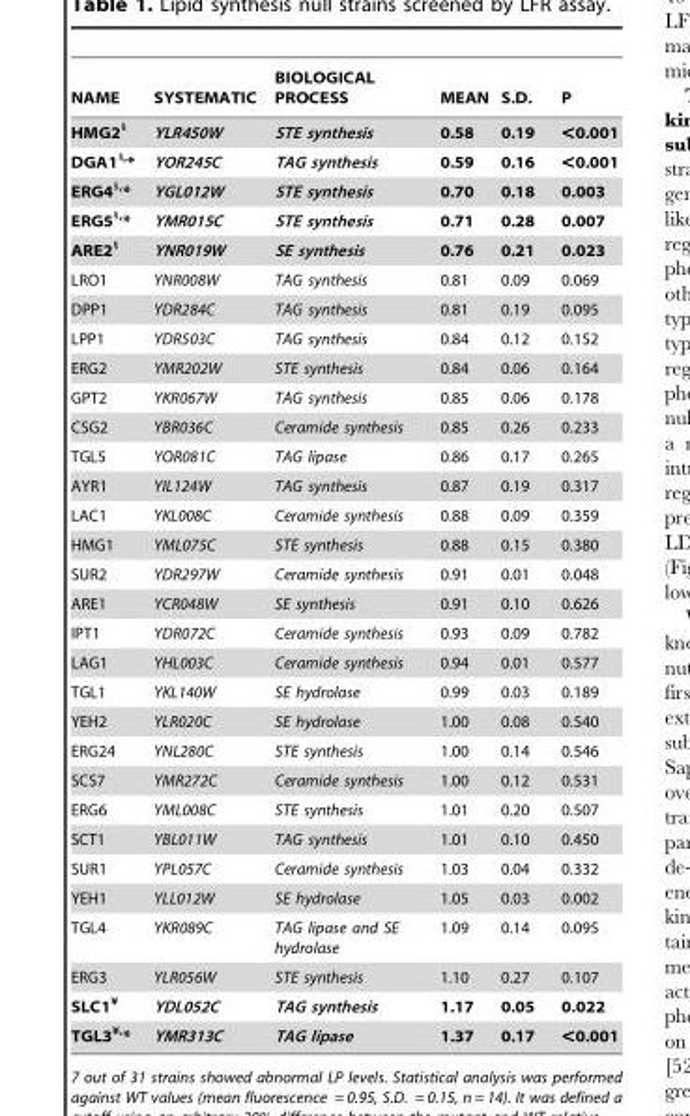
<table><thead><tr><td>NAME</td><td>SYSTEMATIC</td><td>BIOLOGICAL PROCESS</td><td>MEAN</td><td>S.D.</td><td>P</td></tr></thead><tbody><tr><td>HMG2§</td><td>YLR450W</td><td>STE synthesis</td><td>0.58</td><td>0.19</td><td>&lt;0.001</td></tr><tr><td>DGA1§,*</td><td>YOR245C</td><td>TAG synthesis</td><td>0.59</td><td>0.16</td><td>&lt;0.001</td></tr><tr><td>ERG4§,*</td><td>YGL012W</td><td>STE synthesis</td><td>0.70</td><td>0.18</td><td>0.003</td></tr><tr><td>ERG5§,*</td><td>YMR015C</td><td>STE synthesis</td><td>0.71</td><td>0.28</td><td>0.007</td></tr><tr><td>ARE2§</td><td>YNR019W</td><td>SE synthesis</td><td>0.76</td><td>0.21</td><td>0.023</td></tr><tr><td>LRO1</td><td>YNR008W</td><td>TAG synthesis</td><td>0.81</td><td>0.09</td><td>0.069</td></tr><tr><td>DPP1</td><td>YDR284C</td><td>TAG synthesis</td><td>0.81</td><td>0.19</td><td>0.095</td></tr><tr><td>LPP1</td><td>YDR503C</td><td>TAG synthesis</td><td>0.84</td><td>0.12</td><td>0.152</td></tr><tr><td>ERG2</td><td>YMR202W</td><td>STE synthesis</td><td>0.84</td><td>0.06</td><td>0.164</td></tr><tr><td>GPT2</td><td>YKR067W</td><td>TAG synthesis</td><td>0.85</td><td>0.06</td><td>0.178</td></tr><tr><td>CSG2</td><td>YBR036C</td><td>Ceramide synthesis</td><td>0.85</td><td>0.26</td><td>0.233</td></tr><tr><td>TGL5</td><td>YOR081C</td><td>TAG lipase</td><td>0.86</td><td>0.17</td><td>0.265</td></tr><tr><td>AYR1</td><td>YIL124W</td><td>TAG synthesis</td><td>0.87</td><td>0.19</td><td>0.317</td></tr><tr><td>LAC1</td><td>YKL008C</td><td>Ceramide synthesis</td><td>0.88</td><td>0.09</td><td>0.359</td></tr><tr><td>HMG1</td><td>YML075C</td><td>STE synthesis</td><td>0.88</td><td>0.15</td><td>0.380</td></tr><tr><td>SUR2</td><td>YDR297W</td><td>Ceramide synthesis</td><td>0.91</td><td>0.01</td><td>0.048</td></tr><tr><td>ARE1</td><td>YCR048W</td><td>SE synthesis</td><td>0.91</td><td>0.10</td><td>0.626</td></tr><tr><td>IPT1</td><td>YDR072C</td><td>Ceramide synthesis</td><td>0.93</td><td>0.09</td><td>0.782</td></tr><tr><td>LAG1</td><td>YHL003C</td><td>Ceramide synthesis</td><td>0.94</td><td>0.01</td><td>0.577</td></tr><tr><td>TGL1</td><td>YKL140W</td><td>SE hydrolase</td><td>0.99</td><td>0.03</td><td>0.189</td></tr><tr><td>YEH2</td><td>YLR020C</td><td>SE hydrolase</td><td>1.00</td><td>0.08</td><td>0.540</td></tr><tr><td>ERG24</td><td>YNL280C</td><td>STE synthesis</td><td>1.00</td><td>0.14</td><td>0.546</td></tr><tr><td>SCS7</td><td>YMR272C</td><td>Ceramide synthesis</td><td>1.00</td><td>0.12</td><td>0.531</td></tr><tr><td>ERG6</td><td>YML008C</td><td>STE synthesis</td><td>1.01</td><td>0.20</td><td>0.507</td></tr><tr><td>SCT1</td><td>YBL011W</td><td>TAG synthesis</td><td>1.01</td><td>0.10</td><td>0.450</td></tr><tr><td>SUR1</td><td>YPL057C</td><td>Ceramide synthesis</td><td>1.03</td><td>0.04</td><td>0.332</td></tr><tr><td>YEH1</td><td>YLL012W</td><td>SE hydrolase</td><td>1.05</td><td>0.03</td><td>0.002</td></tr><tr><td>TGL4</td><td>YKR089C</td><td>TAG lipase and SE hydrolase</td><td>1.09</td><td>0.14</td><td>0.095</td></tr><tr><td>ERG3</td><td>YLR056W</td><td>STE synthesis</td><td>1.10</td><td>0.27</td><td>0.107</td></tr><tr><td>SLC1¥</td><td>YDL052C</td><td>TAG synthesis</td><td>1.17</td><td>0.05</td><td>0.022</td></tr><tr><td>TGL3¥,*</td><td>YMR313C</td><td>TAG lipase</td><td>1.37</td><td>0.17</td><td>&lt;0.001</td></tr></tbody></table>